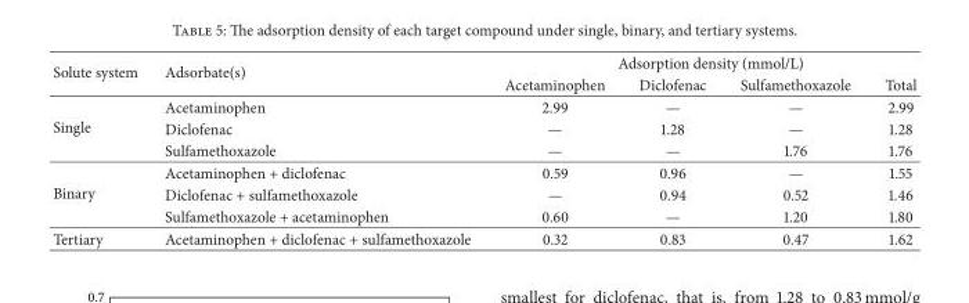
<table><thead><tr><td rowspan="2">Solute system</td><td rowspan="2">Adsorbate(s)</td><td colspan="4">Adsorption density (mmol/L)</td></tr><tr><td>Acetaminophen</td><td>Diclofenac</td><td>Sulfamethoxazole</td><td>Total</td></tr></thead><tbody><tr><td rowspan="3">Single</td><td>Acetaminophen</td><td>2.99</td><td>—</td><td>—</td><td>2.99</td></tr><tr><td>Diclofenac</td><td>—</td><td>1.28</td><td>—</td><td>1.28</td></tr><tr><td>Sulfamethoxazole</td><td>—</td><td>—</td><td>1.76</td><td>1.76</td></tr><tr><td rowspan="3">Binary</td><td>Acetaminophen + diclofenac</td><td>0.59</td><td>0.96</td><td>—</td><td>1.55</td></tr><tr><td>Diclofenac + sulfamethoxazole</td><td>—</td><td>0.94</td><td>0.52</td><td>1.46</td></tr><tr><td>Sulfamethoxazole + acetaminophen</td><td>0.60</td><td>—</td><td>1.20</td><td>1.80</td></tr><tr><td>Tertiary</td><td>Acetaminophen + diclofenac + sulfamethoxazole</td><td>0.32</td><td>0.83</td><td>0.47</td><td>1.62</td></tr></tbody></table>